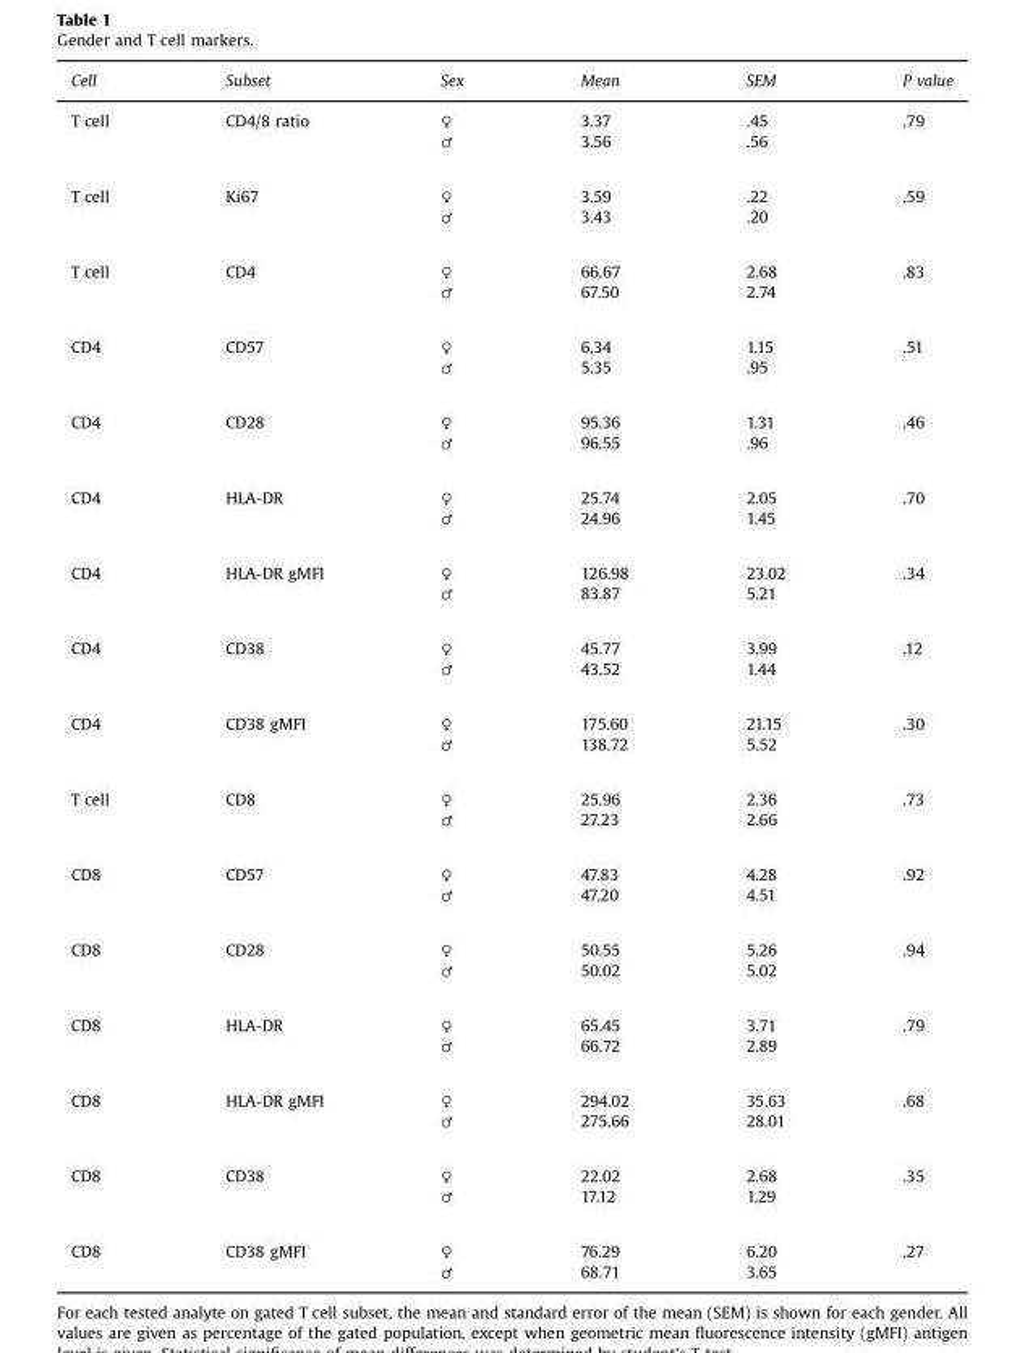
<table><thead><tr><td>Cell</td><td>Subset</td><td>Sex</td><td>Mean</td><td>SEM</td><td>P value</td></tr></thead><tbody><tr><td rowspan="2">T cell</td><td>CD4/8 ratio</td><td>♀</td><td>3.37</td><td>.45</td><td>.79</td></tr><tr><td></td><td>♂</td><td>3.56</td><td>.56</td><td></td></tr><tr><td rowspan="2">T cell</td><td>Ki67</td><td>♀</td><td>3.59</td><td>.22</td><td>.59</td></tr><tr><td></td><td>♂</td><td>3.43</td><td>.20</td><td></td></tr><tr><td rowspan="2">T cell</td><td>CD4</td><td>♀</td><td>66.67</td><td>2.68</td><td>.83</td></tr><tr><td></td><td>♂</td><td>67.50</td><td>2.74</td><td></td></tr><tr><td rowspan="2">CD4</td><td>CD57</td><td>♀</td><td>6.34</td><td>1.15</td><td>.51</td></tr><tr><td></td><td>♂</td><td>5.35</td><td>.95</td><td></td></tr><tr><td rowspan="2">CD4</td><td>CD28</td><td>♀</td><td>95.36</td><td>1.31</td><td>.46</td></tr><tr><td></td><td>♂</td><td>96.55</td><td>.96</td><td></td></tr><tr><td rowspan="2">CD4</td><td>HLA-DR</td><td>♀</td><td>25.74</td><td>2.05</td><td>.70</td></tr><tr><td></td><td>♂</td><td>24.96</td><td>1.45</td><td></td></tr><tr><td rowspan="2">CD4</td><td>HLA-DR gMFI</td><td>♀</td><td>126.98</td><td>23.02</td><td>.34</td></tr><tr><td></td><td>♂</td><td>83.87</td><td>5.21</td><td></td></tr><tr><td rowspan="2">CD4</td><td>CD38</td><td>♀</td><td>45.77</td><td>3.99</td><td>.12</td></tr><tr><td></td><td>♂</td><td>43.52</td><td>1.44</td><td></td></tr><tr><td rowspan="2">CD4</td><td>CD38 gMFI</td><td>♀</td><td>175.60</td><td>21.15</td><td>.30</td></tr><tr><td></td><td>♂</td><td>138.72</td><td>5.52</td><td></td></tr><tr><td rowspan="2">T cell</td><td>CD8</td><td>♀</td><td>25.96</td><td>2.36</td><td>.73</td></tr><tr><td></td><td>♂</td><td>27.23</td><td>2.66</td><td></td></tr><tr><td rowspan="2">CD8</td><td>CD57</td><td>♀</td><td>47.83</td><td>4.28</td><td>.92</td></tr><tr><td></td><td>♂</td><td>47.20</td><td>4.51</td><td></td></tr><tr><td rowspan="2">CD8</td><td>CD28</td><td>♀</td><td>50.55</td><td>5.26</td><td>.94</td></tr><tr><td></td><td>♂</td><td>50.02</td><td>5.02</td><td></td></tr><tr><td rowspan="2">CD8</td><td>HLA-DR</td><td>♀</td><td>65.45</td><td>3.71</td><td>.79</td></tr><tr><td></td><td>♂</td><td>66.72</td><td>2.89</td><td></td></tr><tr><td rowspan="2">CD8</td><td>HLA-DR gMFI</td><td>♀</td><td>294.02</td><td>35.63</td><td>.68</td></tr><tr><td></td><td>♂</td><td>275.66</td><td>28.01</td><td></td></tr><tr><td rowspan="2">CD8</td><td>CD38</td><td>♀</td><td>22.02</td><td>2.68</td><td>.35</td></tr><tr><td></td><td>♂</td><td>17.12</td><td>1.29</td><td></td></tr><tr><td rowspan="2">CD8</td><td>CD38 gMFI</td><td>♀</td><td>76.29</td><td>6.20</td><td>.27</td></tr><tr><td></td><td>♂</td><td>68.71</td><td>3.65</td><td></td></tr></tbody></table>